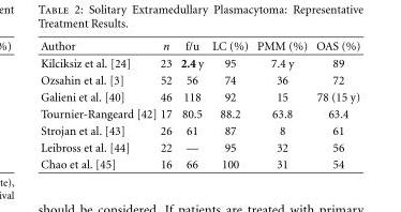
<table><thead><tr><td>Author</td><td>n</td><td>f/u</td><td>LC (%)</td><td>PMM (%)</td><td>OAS (%)</td></tr></thead><tbody><tr><td>Kilciksiz et al. [24]</td><td>23</td><td>2.4 y</td><td>95</td><td>7.4 y</td><td>89</td></tr><tr><td>Ozsahin et al. [3]</td><td>52</td><td>56</td><td>74</td><td>36</td><td>72</td></tr><tr><td>Galieni et al. [40]</td><td>46</td><td>118</td><td>92</td><td>15</td><td>78 (15 y)</td></tr><tr><td>Tournier-Rangeard [42]</td><td>17</td><td>80.5</td><td>88.2</td><td>63.8</td><td>63.4</td></tr><tr><td>Strojan et al. [43]</td><td>26</td><td>61</td><td>87</td><td>8</td><td>61</td></tr><tr><td>Leibross et al. [44]</td><td>22</td><td>—</td><td>95</td><td>32</td><td>56</td></tr><tr><td>Chao et al. [45]</td><td>16</td><td>66</td><td>100</td><td>31</td><td>54</td></tr></tbody></table>